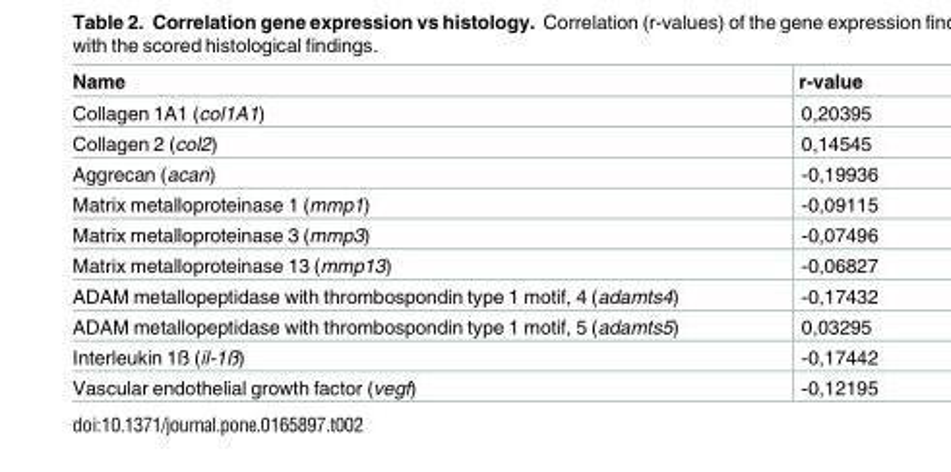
<table><thead><tr><td>Name</td><td>r-value</td></tr></thead><tbody><tr><td>Collagen 1A1 (col1A1)</td><td>0,20395</td></tr><tr><td>Collagen 2 (col2)</td><td>0,14545</td></tr><tr><td>Aggrecan (acan)</td><td>-0,19936</td></tr><tr><td>Matrix metalloproteinase 1 (mmp1)</td><td>-0,09115</td></tr><tr><td>Matrix metalloproteinase 3 (mmp3)</td><td>-0,07496</td></tr><tr><td>Matrix metalloproteinase 13 (mmp13)</td><td>-0,06827</td></tr><tr><td>ADAM metallopeptidase with thrombospondin type 1 motif, 4 (adamts4)</td><td>-0,17432</td></tr><tr><td>ADAM metallopeptidase with thrombospondin type 1 motif, 5 (adamts5)</td><td>0,03295</td></tr><tr><td>Interleukin 1ß (il-1ß)</td><td>-0,17442</td></tr><tr><td>Vascular endothelial growth factor (vegf)</td><td>-0,12195</td></tr></tbody></table>